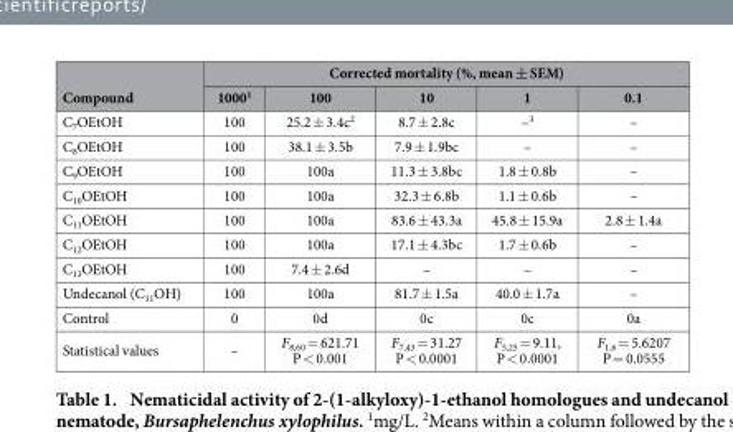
<table><thead><tr><td rowspan="2">Compound</td><td colspan="5">Corrected mortality (%, mean ± SEM)</td></tr><tr><td>1000<sup>1</sup></td><td>100</td><td>10</td><td>1</td><td>0.1</td></tr></thead><tbody><tr><td>C<sub>7</sub>OEtOH</td><td>100</td><td>25.2 ± 3.4c<sup>2</sup></td><td>8.7 ± 2.8c</td><td>–3</td><td>–</td></tr><tr><td>C<sub>8</sub>OEtOH</td><td>100</td><td>38.1 ± 3.5b</td><td>7.9 ± 1.9bc</td><td>–</td><td>–</td></tr><tr><td>C<sub>9</sub>OEtOH</td><td>100</td><td>100a</td><td>11.3 ± 3.8bc</td><td>1.8 ± 0.8b</td><td>–</td></tr><tr><td>C<sub>10</sub>OEtOH</td><td>100</td><td>100a</td><td>32.3 ± 6.8b</td><td>1.1 ± 0.6b</td><td>–</td></tr><tr><td>C<sub>11</sub>OEtOH</td><td>100</td><td>100a</td><td>83.6 ± 43.3a</td><td>45.8 ± 15.9a</td><td>2.8 ± 1.4a</td></tr><tr><td>C<sub>12</sub>OEtOH</td><td>100</td><td>100a</td><td>17.1 ± 4.3bc</td><td>1.7 ± 0.6b</td><td>–</td></tr><tr><td>C<sub>13</sub>OEtOH</td><td>100</td><td>7.4 ± 2.6d</td><td>–</td><td>–</td><td>–</td></tr><tr><td>Undecanol (C<sub>11</sub>OH)</td><td>100</td><td>100a</td><td>81.7 ± 1.5a</td><td>40.0 ± 1.7a</td><td>–</td></tr><tr><td>Control</td><td>0</td><td>0d</td><td>0c</td><td>0c</td><td>0a</td></tr><tr><td>Statistical values</td><td>–</td><td>F<sub>8,60</sub> = 621.71 P &lt; 0.001</td><td>F<sub>7,43</sub> = 31.27 P &lt; 0.0001</td><td>F<sub>5,25</sub> = 9.11, P &lt; 0.0001</td><td>F<sub>1,6</sub> = 5.6207 P = 0.0555</td></tr></tbody></table>